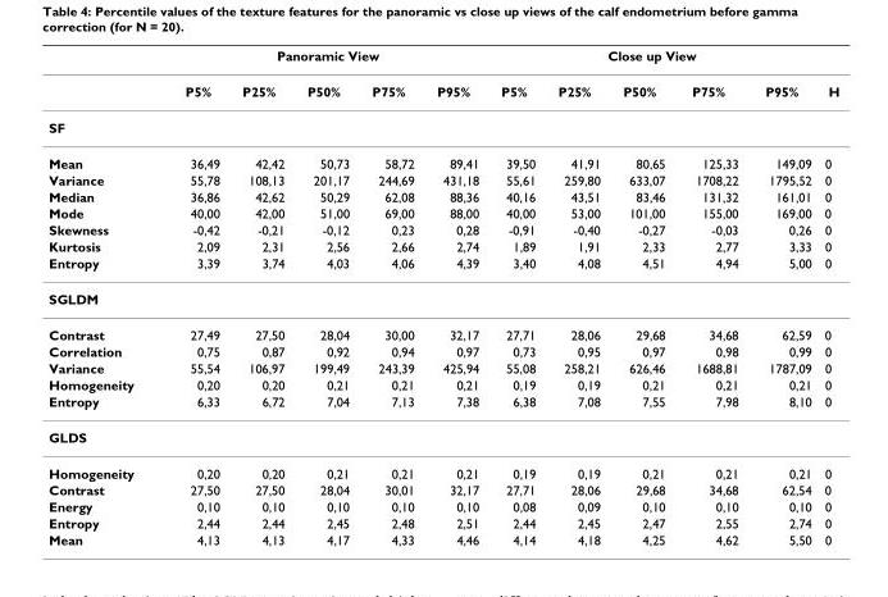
<table><thead><tr><td rowspan="2"></td><td colspan="5">Panoramic View</td><td colspan="5">Close up View</td><td rowspan="2">H</td></tr><tr><td>P5%</td><td>P25%</td><td>P50%</td><td>P75%</td><td>P95%</td><td>P5%</td><td>P25%</td><td>P50%</td><td>P75%</td><td>P95%</td></tr></thead><tbody><tr><td colspan="12">SF</td></tr><tr><td>Mean</td><td>36,49</td><td>42,42</td><td>50,73</td><td>58,72</td><td>89,41</td><td>39,50</td><td>41,91</td><td>80,65</td><td>125,33</td><td>149,09</td><td>0</td></tr><tr><td>Variance</td><td>55,78</td><td>108,13</td><td>201,17</td><td>244,69</td><td>431,18</td><td>55,61</td><td>259,80</td><td>633,07</td><td>1708,22</td><td>1795,52</td><td>0</td></tr><tr><td>Median</td><td>36,86</td><td>42,62</td><td>50,29</td><td>62,08</td><td>88,36</td><td>40,16</td><td>43,51</td><td>83,46</td><td>131,32</td><td>161,01</td><td>0</td></tr><tr><td>Mode</td><td>40,00</td><td>42,00</td><td>51,00</td><td>69,00</td><td>88,00</td><td>40,00</td><td>53,00</td><td>101,00</td><td>155,00</td><td>169,00</td><td>0</td></tr><tr><td>Skewness</td><td>-0,42</td><td>-0,21</td><td>-0,12</td><td>0,23</td><td>0,28</td><td>-0,91</td><td>-0,40</td><td>-0,27</td><td>-0,03</td><td>0,26</td><td>0</td></tr><tr><td>Kurtosis</td><td>2,09</td><td>2,31</td><td>2,56</td><td>2,66</td><td>2,74</td><td>1,89</td><td>1,91</td><td>2,33</td><td>2,77</td><td>3,33</td><td>0</td></tr><tr><td>Entropy</td><td>3,39</td><td>3,74</td><td>4,03</td><td>4,06</td><td>4,39</td><td>3,40</td><td>4,08</td><td>4,51</td><td>4,94</td><td>5,00</td><td>0</td></tr><tr><td colspan="12">SGLDM</td></tr><tr><td>Contrast</td><td>27,49</td><td>27,50</td><td>28,04</td><td>30,00</td><td>32,17</td><td>27,71</td><td>28,06</td><td>29,68</td><td>34,68</td><td>62,59</td><td>0</td></tr><tr><td>Correlation</td><td>0,75</td><td>0,87</td><td>0,92</td><td>0,94</td><td>0,97</td><td>0,73</td><td>0,95</td><td>0,97</td><td>0,98</td><td>0,99</td><td>0</td></tr><tr><td>Variance</td><td>55,54</td><td>106,97</td><td>199,49</td><td>243,39</td><td>425,94</td><td>55,08</td><td>258,21</td><td>626,46</td><td>1688,81</td><td>1787,09</td><td>0</td></tr><tr><td>Homogeneity</td><td>0,20</td><td>0,20</td><td>0,21</td><td>0,21</td><td>0,21</td><td>0,19</td><td>0,19</td><td>0,21</td><td>0,21</td><td>0,21</td><td>0</td></tr><tr><td>Entropy</td><td>6,33</td><td>6,72</td><td>7,04</td><td>7,13</td><td>7,38</td><td>6,38</td><td>7,08</td><td>7,55</td><td>7,98</td><td>8,10</td><td>0</td></tr><tr><td colspan="12">GLDS</td></tr><tr><td>Homogeneity</td><td>0,20</td><td>0,20</td><td>0,21</td><td>0,21</td><td>0,21</td><td>0,19</td><td>0,19</td><td>0,21</td><td>0,21</td><td>0,21</td><td>0</td></tr><tr><td>Contrast</td><td>27,50</td><td>27,50</td><td>28,04</td><td>30,01</td><td>32,17</td><td>27,71</td><td>28,06</td><td>29,68</td><td>34,68</td><td>62,54</td><td>0</td></tr><tr><td>Energy</td><td>0,10</td><td>0,10</td><td>0,10</td><td>0,10</td><td>0,10</td><td>0,08</td><td>0,09</td><td>0,10</td><td>0,10</td><td>0,10</td><td>0</td></tr><tr><td>Entropy</td><td>2,44</td><td>2,44</td><td>2,45</td><td>2,48</td><td>2,51</td><td>2,44</td><td>2,45</td><td>2,47</td><td>2,55</td><td>2,74</td><td>0</td></tr><tr><td>Mean</td><td>4,13</td><td>4,13</td><td>4,17</td><td>4,33</td><td>4,46</td><td>4,14</td><td>4,18</td><td>4,25</td><td>4,62</td><td>5,50</td><td>0</td></tr></tbody></table>